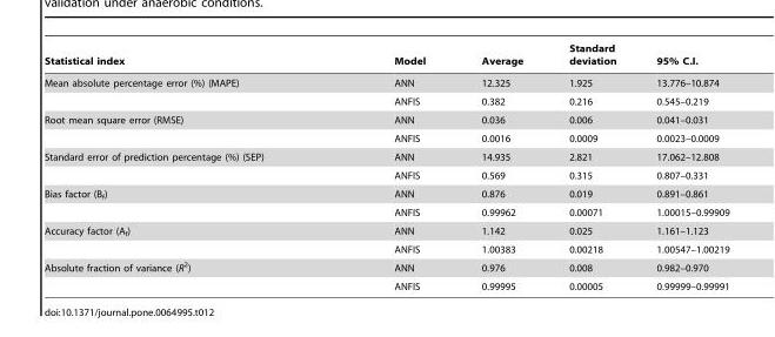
<table><thead><tr><td>Statistical index</td><td>Model</td><td>Average</td><td>Standard deviation</td><td>95% C.I.</td></tr></thead><tbody><tr><td rowspan="2">Mean absolute percentage error (%) (MAPE)</td><td>ANN</td><td>12.325</td><td>1.925</td><td>13.776–10.874</td></tr><tr><td>ANFIS</td><td>0.382</td><td>0.216</td><td>0.545–0.219</td></tr><tr><td rowspan="2">Root mean square error (RMSE)</td><td>ANN</td><td>0.036</td><td>0.006</td><td>0.041–0.031</td></tr><tr><td>ANFIS</td><td>0.0016</td><td>0.0009</td><td>0.0023–0.0009</td></tr><tr><td rowspan="2">Standard error of prediction percentage (%) (SEP)</td><td>ANN</td><td>14.935</td><td>2.821</td><td>17.062–12.808</td></tr><tr><td>ANFIS</td><td>0.569</td><td>0.315</td><td>0.807–0.331</td></tr><tr><td rowspan="2">Bias factor (B<sub>f</sub>)</td><td>ANN</td><td>0.876</td><td>0.019</td><td>0.891–0.861</td></tr><tr><td>ANFIS</td><td>0.99962</td><td>0.00071</td><td>1.00015–0.99909</td></tr><tr><td rowspan="2">Accuracy factor (A<sub>f</sub>)</td><td>ANN</td><td>1.142</td><td>0.025</td><td>1.161–1.123</td></tr><tr><td>ANFIS</td><td>1.00383</td><td>0.00218</td><td>1.00547–1.00219</td></tr><tr><td rowspan="2">Absolute fraction of variance (R<sup>2</sup>)</td><td>ANN</td><td>0.976</td><td>0.008</td><td>0.982–0.970</td></tr><tr><td>ANFIS</td><td>0.99995</td><td>0.00005</td><td>0.99999–0.99991</td></tr></tbody></table>